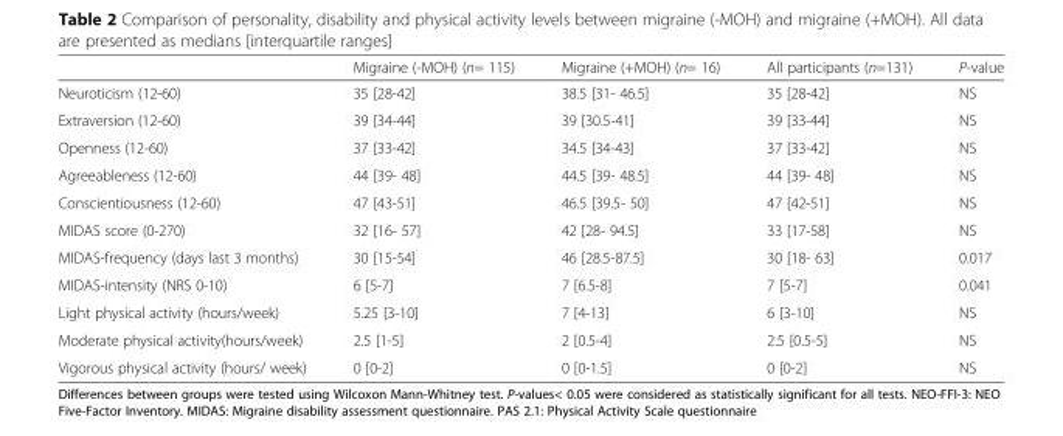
<table><thead><tr><td></td><td>Migraine (-MOH) (n= 115)</td><td>Migraine (+MOH) (n= 16)</td><td>All participants (n=131)</td><td>P-value</td></tr></thead><tbody><tr><td>Neuroticism (12-60)</td><td>35 [28-42]</td><td>38.5 [31- 46.5]</td><td>35 [28-42]</td><td>NS</td></tr><tr><td>Extraversion (12-60)</td><td>39 [34-44]</td><td>39 [30.5-41]</td><td>39 [33-44]</td><td>NS</td></tr><tr><td>Openness (12-60)</td><td>37 [33-42]</td><td>34.5 [34-43]</td><td>37 [33-42]</td><td>NS</td></tr><tr><td>Agreeableness (12-60)</td><td>44 [39- 48]</td><td>44.5 [39- 48.5]</td><td>44 [39- 48]</td><td>NS</td></tr><tr><td>Conscientiousness (12-60)</td><td>47 [43-51]</td><td>46.5 [39.5- 50]</td><td>47 [42-51]</td><td>NS</td></tr><tr><td>MIDAS score (0-270)</td><td>32 [16- 57]</td><td>42 [28- 94.5]</td><td>33 [17-58]</td><td>NS</td></tr><tr><td>MIDAS-frequency (days last 3 months)</td><td>30 [15-54]</td><td>46 [28.5-87.5]</td><td>30 [18- 63]</td><td>0.017</td></tr><tr><td>MIDAS-intensity (NRS 0-10)</td><td>6 [5-7]</td><td>7 [6.5-8]</td><td>7 [5-7]</td><td>0.041</td></tr><tr><td>Light physical activity (hours/week)</td><td>5.25 [3-10]</td><td>7 [4-13]</td><td>6 [3-10]</td><td>NS</td></tr><tr><td>Moderate physical activity(hours/week)</td><td>2.5 [1-5]</td><td>2 [0.5-4]</td><td>2.5 [0.5-5]</td><td>NS</td></tr><tr><td>Vigorous physical activity (hours/ week)</td><td>0 [0-2]</td><td>0 [0-1.5]</td><td>0 [0-2]</td><td>NS</td></tr></tbody></table>